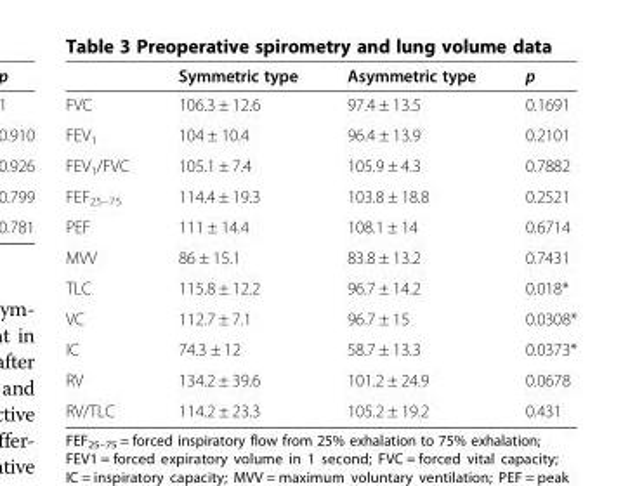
<table><thead><tr><td></td><td>Symmetric type</td><td>Asymmetric type</td><td>p</td></tr></thead><tbody><tr><td>FVC</td><td>106.3 ± 12.6</td><td>97.4 ± 13.5</td><td>0.1691</td></tr><tr><td>FEV<sub>1</sub></td><td>104 ± 10.4</td><td>96.4 ± 13.9</td><td>0.2101</td></tr><tr><td>FEV<sub>1</sub>/FVC</td><td>105.1 ± 7.4</td><td>105.9 ± 4.3</td><td>0.7882</td></tr><tr><td>FEF<sub>25–75</sub></td><td>114.4 ± 19.3</td><td>103.8 ± 18.8</td><td>0.2521</td></tr><tr><td>PEF</td><td>111 ± 14.4</td><td>108.1 ± 14</td><td>0.6714</td></tr><tr><td>MVV</td><td>86 ± 15.1</td><td>83.8 ± 13.2</td><td>0.7431</td></tr><tr><td>TLC</td><td>115.8 ± 12.2</td><td>96.7 ± 14.2</td><td>0.018*</td></tr><tr><td>VC</td><td>112.7 ± 7.1</td><td>96.7 ± 15</td><td>0.0308*</td></tr><tr><td>IC</td><td>74.3 ± 12</td><td>58.7 ± 13.3</td><td>0.0373*</td></tr><tr><td>RV</td><td>134.2 ± 39.6</td><td>101.2 ± 24.9</td><td>0.0678</td></tr><tr><td>RV/TLC</td><td>114.2 ± 23.3</td><td>105.2 ± 19.2</td><td>0.431</td></tr></tbody></table>